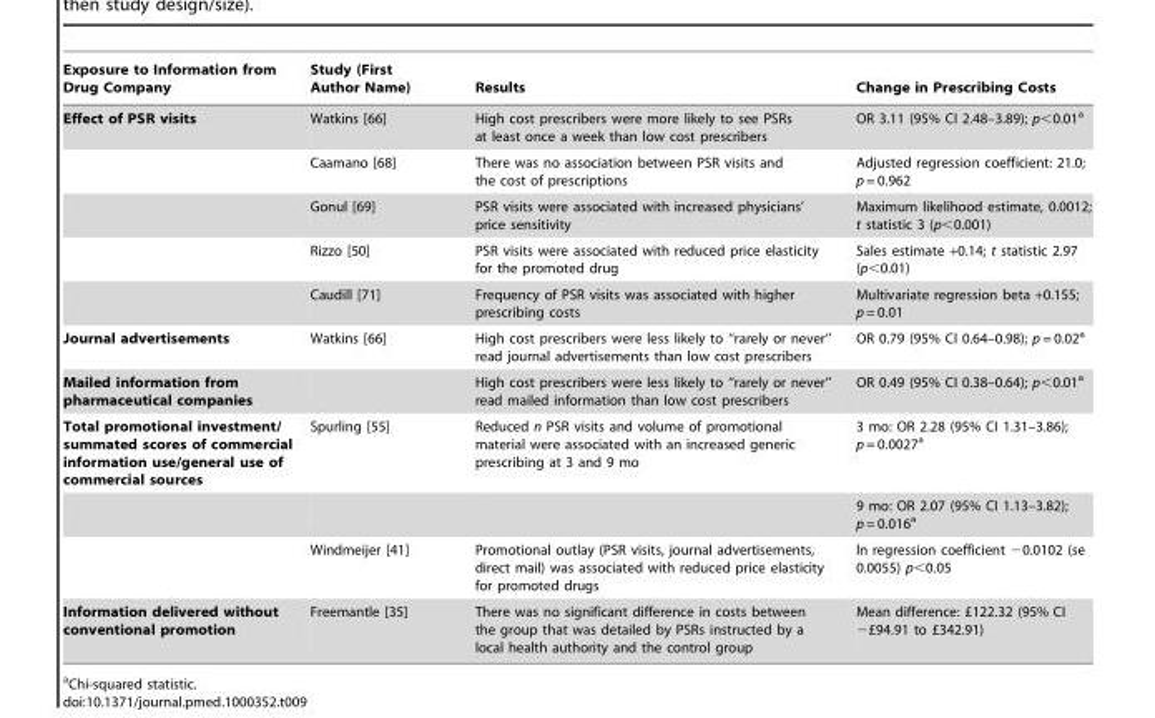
<table><thead><tr><td>Exposure to Information from Drug Company</td><td>Study (First Author Name)</td><td>Results</td><td>Change in Prescribing Costs</td></tr></thead><tbody><tr><td rowspan="5">Effect of PSR visits</td><td>Watkins [66]</td><td>High cost prescribers were more likely to see PSRs at least once a week than low cost prescribers</td><td>OR 3.11 (95% CI 2.48–3.89); p&lt;0.01<sup>a</sup></td></tr><tr><td>Caamano [68]</td><td>There was no association between PSR visits and the cost of prescriptions</td><td>Adjusted regression coefficient: 21.0; p = 0.962</td></tr><tr><td>Gonul [69]</td><td>PSR visits were associated with increased physicians’ price sensitivity</td><td>Maximum likelihood estimate, 0.0012; t statistic 3 (p&lt;0.001)</td></tr><tr><td>Rizzo [50]</td><td>PSR visits were associated with reduced price elasticity for the promoted drug</td><td>Sales estimate +0.14; t statistic 2.97 (p&lt;0.01)</td></tr><tr><td>Caudill [71]</td><td>Frequency of PSR visits was associated with higher prescribing costs</td><td>Multivariate regression beta +0.155; p = 0.01</td></tr><tr><td>Journal advertisements</td><td>Watkins [66]</td><td>High cost prescribers were less likely to ‘‘rarely or never’’ read journal advertisements than low cost prescribers</td><td>OR 0.79 (95% CI 0.64–0.98); p = 0.02<sup>a</sup></td></tr><tr><td>Mailed information from pharmaceutical companies</td><td></td><td>High cost prescribers were less likely to ‘‘rarely or never’’ read mailed information than low cost prescribers</td><td>OR 0.49 (95% CI 0.38–0.64); p&lt;0.01<sup>a</sup></td></tr><tr><td rowspan="3">Total promotional investment/ summated scores of commercial information use/general use of commercial sources</td><td>Spurling [55]</td><td>Reduced n PSR visits and volume of promotional material were associated with an increased generic prescribing at 3 and 9 mo</td><td>3 mo: OR 2.28 (95% CI 1.31–3.86); p = 0.0027<sup>a</sup></td></tr><tr><td></td><td></td><td>9 mo: OR 2.07 (95% CI 1.13–3.82); p = 0.016<sup>a</sup></td></tr><tr><td>Windmeijer [41]</td><td>Promotional outlay (PSR visits, journal advertisements, direct mail) was associated with reduced price elasticity for promoted drugs</td><td>ln regression coefficient −0.0102 (se 0.0055) p&lt;0.05</td></tr><tr><td>Information delivered without conventional promotion</td><td>Freemantle [35]</td><td>There was no significant difference in costs between the group that was detailed by PSRs instructed by a local health authority and the control group</td><td>Mean difference: £122.32 (95% CI −£94.91 to £342.91)</td></tr></tbody></table>